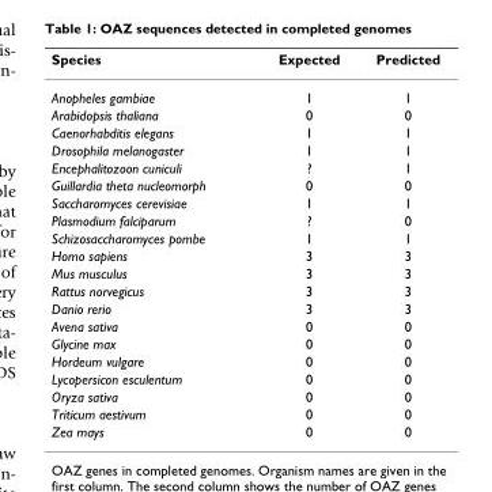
<table><thead><tr><td>Species</td><td>Expected</td><td>Predicted</td></tr></thead><tbody><tr><td>Anopheles gambiae</td><td>1</td><td>1</td></tr><tr><td>Arabidopsis thaliana</td><td>0</td><td>0</td></tr><tr><td>Caenorhabditis elegans</td><td>1</td><td>1</td></tr><tr><td>Drosophila melanogaster</td><td>1</td><td>1</td></tr><tr><td>Encephalitozoon cuniculi</td><td>?</td><td>1</td></tr><tr><td>Guillardia theta nucleomorph</td><td>0</td><td>0</td></tr><tr><td>Saccharomyces cerevisiae</td><td>1</td><td>1</td></tr><tr><td>Plasmodium falciparum</td><td>?</td><td>0</td></tr><tr><td>Schizosaccharomyces pombe</td><td>1</td><td>1</td></tr><tr><td>Homo sapiens</td><td>3</td><td>3</td></tr><tr><td>Mus musculus</td><td>3</td><td>3</td></tr><tr><td>Rattus norvegicus</td><td>3</td><td>3</td></tr><tr><td>Danio rerio</td><td>3</td><td>3</td></tr><tr><td>Avena sativa</td><td>0</td><td>0</td></tr><tr><td>Glycine max</td><td>0</td><td>0</td></tr><tr><td>Hordeum vulgare</td><td>0</td><td>0</td></tr><tr><td>Lycopersicon esculentum</td><td>0</td><td>0</td></tr><tr><td>Oryza sativa</td><td>0</td><td>0</td></tr><tr><td>Triticum aestivum</td><td>0</td><td>0</td></tr><tr><td>Zea mays</td><td>0</td><td>0</td></tr></tbody></table>